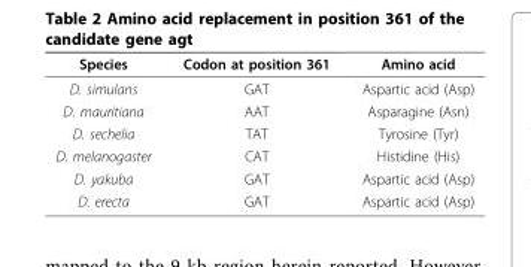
<table><thead><tr><td>Species</td><td>Codon at position 361</td><td>Amino acid</td></tr></thead><tbody><tr><td>D. simulans</td><td>GAT</td><td>Aspartic acid (Asp)</td></tr><tr><td>D. mauritiana</td><td>AAT</td><td>Asparagine (Asn)</td></tr><tr><td>D. sechelia</td><td>TAT</td><td>Tyrosine (Tyr)</td></tr><tr><td>D. melanogaster</td><td>CAT</td><td>Histidine (His)</td></tr><tr><td>D. yakuba</td><td>GAT</td><td>Aspartic acid (Asp)</td></tr><tr><td>D. erecta</td><td>GAT</td><td>Aspartic acid (Asp)</td></tr></tbody></table>